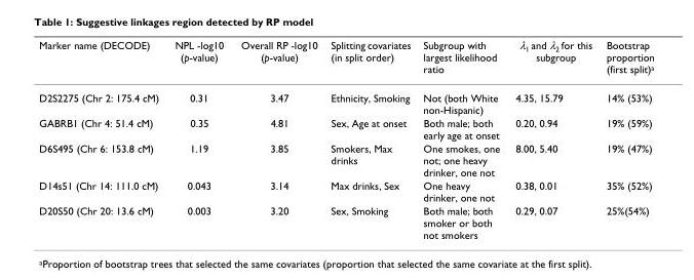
<table><thead><tr><td>Marker name (DECODE)</td><td>NPL -log10 (p-value)</td><td>Overall RP -log10 (p-value)</td><td>Splitting covariates (in split order)</td><td>Subgroup with largest likelihood ratio</td><td>λ1 and λ2 for this subgroup</td><td>Bootstrap proportion (first split)a</td></tr></thead><tbody><tr><td>D2S2275 (Chr 2: 175.4 cM)</td><td>0.31</td><td>3.47</td><td>Ethnicity, Smoking</td><td>Not (both White non-Hispanic)</td><td>4.35, 15.79</td><td>14% (53%)</td></tr><tr><td>GABRB1 (Chr 4: 51.4 cM)</td><td>0.35</td><td>4.81</td><td>Sex, Age at onset</td><td>Both male; both early age at onset</td><td>0.20, 0.94</td><td>19% (59%)</td></tr><tr><td>D6S495 (Chr 6: 153.8 cM)</td><td>1.19</td><td>3.85</td><td>Smokers, Max drinks</td><td>One smokes, one not; one heavy drinker, one not</td><td>8.00, 5.40</td><td>19% (47%)</td></tr><tr><td>D14s51 (Chr 14: 111.0 cM)</td><td>0.043</td><td>3.14</td><td>Max drinks, Sex</td><td>One heavy drinker, one not</td><td>0.38, 0.01</td><td>35% (52%)</td></tr><tr><td>D20S50 (Chr 20: 13.6 cM)</td><td>0.003</td><td>3.20</td><td>Sex, Smoking</td><td>Both male; both smoker or both not smokers</td><td>0.29, 0.07</td><td>25%(54%)</td></tr></tbody></table>